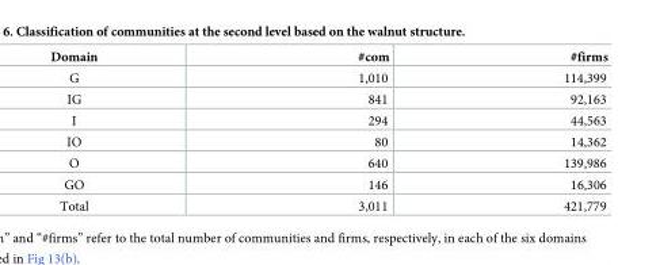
<table><thead><tr><td>Domain</td><td>#com</td><td>#firms</td></tr></thead><tbody><tr><td>G</td><td>1,010</td><td>114,399</td></tr><tr><td>IG</td><td>841</td><td>92,163</td></tr><tr><td>I</td><td>294</td><td>44,563</td></tr><tr><td>IO</td><td>80</td><td>14,362</td></tr><tr><td>O</td><td>640</td><td>139,986</td></tr><tr><td>GO</td><td>146</td><td>16,306</td></tr><tr><td>Total</td><td>3,011</td><td>421,779</td></tr></tbody></table>